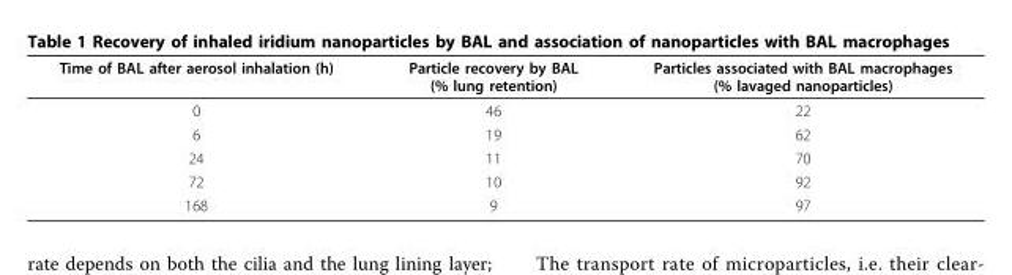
<table><thead><tr><td>Time of BAL after aerosol inhalation (h)</td><td>Particle recovery by BAL (% lung retention)</td><td>Particles associated with BAL macrophages (% lavaged nanoparticles)</td></tr></thead><tbody><tr><td>0</td><td>46</td><td>22</td></tr><tr><td>6</td><td>19</td><td>62</td></tr><tr><td>24</td><td>11</td><td>70</td></tr><tr><td>72</td><td>10</td><td>92</td></tr><tr><td>168</td><td>9</td><td>97</td></tr></tbody></table>